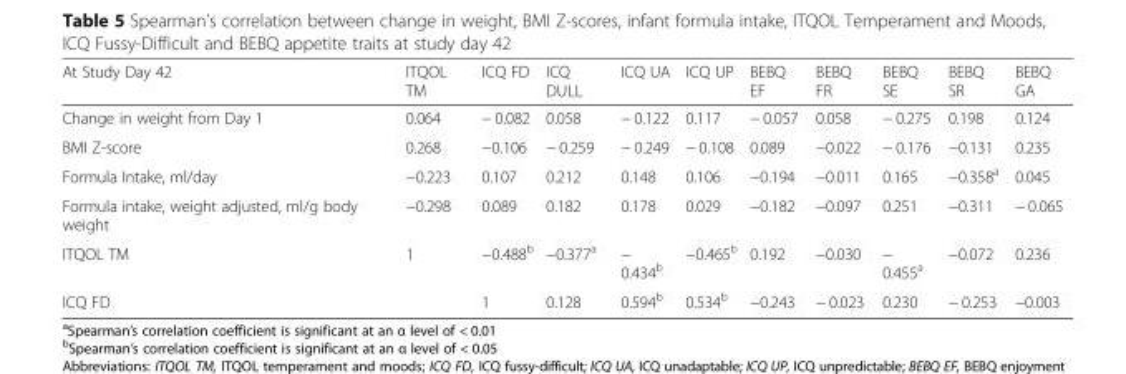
<table><thead><tr><td>At Study Day 42</td><td>ITQOL TM</td><td>ICQ FD</td><td>ICQ DULL</td><td>ICQ UA</td><td>ICQ UP</td><td>BEBQ EF</td><td>BEBQ FR</td><td>BEBQ SE</td><td>BEBQ SR</td><td>BEBQ GA</td></tr></thead><tbody><tr><td>Change in weight from Day 1</td><td>0.064</td><td>− 0.082</td><td>0.058</td><td>− 0.122</td><td>0.117</td><td>− 0.057</td><td>0.058</td><td>− 0.275</td><td>0.198</td><td>0.124</td></tr><tr><td>BMI Z-score</td><td>0.268</td><td>−0.106</td><td>− 0.259</td><td>− 0.249</td><td>− 0.108</td><td>0.089</td><td>−0.022</td><td>− 0.176</td><td>−0.131</td><td>0.235</td></tr><tr><td>Formula Intake, ml/day</td><td>−0.223</td><td>0.107</td><td>0.212</td><td>0.148</td><td>0.106</td><td>−0.194</td><td>−0.011</td><td>0.165</td><td>−0.358<sup>a</sup></td><td>0.045</td></tr><tr><td>Formula intake, weight adjusted, ml/g body weight</td><td>−0.298</td><td>0.089</td><td>0.182</td><td>0.178</td><td>0.029</td><td>−0.182</td><td>−0.097</td><td>0.251</td><td>−0.311</td><td>− 0.065</td></tr><tr><td>ITQOL TM</td><td>1</td><td>−0.488<sup>b</sup></td><td>−0.377<sup>a</sup></td><td>− 0.434<sup>b</sup></td><td>−0.465<sup>b</sup></td><td>0.192</td><td>−0.030</td><td>− 0.455<sup>a</sup></td><td>−0.072</td><td>0.236</td></tr><tr><td>ICQ FD</td><td></td><td>1</td><td>0.128</td><td>0.594<sup>b</sup></td><td>0.534<sup>b</sup></td><td>−0.243</td><td>− 0.023</td><td>0.230</td><td>− 0.253</td><td>−0.003</td></tr></tbody></table>